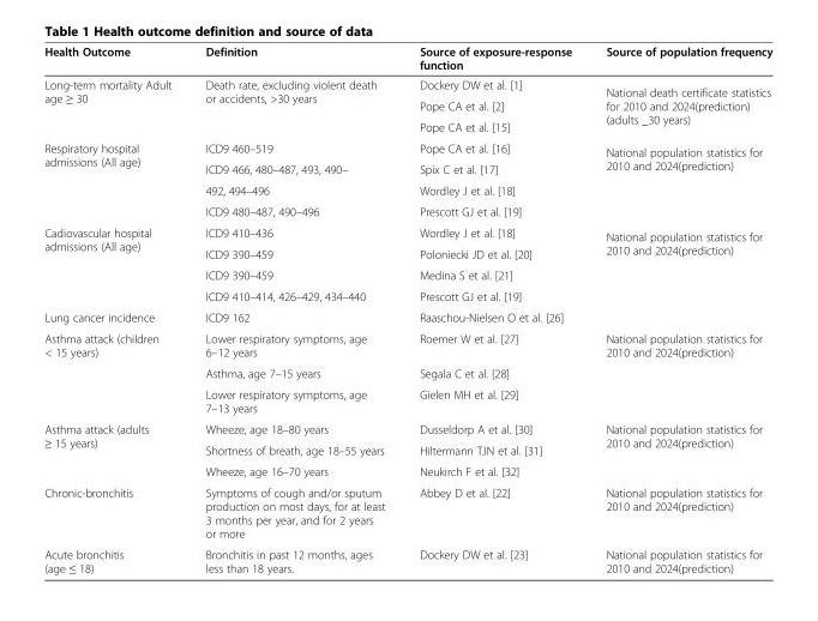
<table><thead><tr><td>Health Outcome</td><td>Definition</td><td>Source of exposure-response function</td><td>Source of population frequency</td></tr></thead><tbody><tr><td rowspan="3">Long-term mortality Adult age ≥ 30</td><td rowspan="3">Death rate, excluding violent death or accidents, &gt;30 years</td><td>Dockery DW et al. [1]</td><td rowspan="3">National death certificate statistics for 2010 and 2024(prediction) (adults _30 years)</td></tr><tr><td>Pope CA et al. [2]</td></tr><tr><td>Pope CA et al. [15]</td></tr><tr><td rowspan="4">Respiratory hospital admissions (All age)</td><td>ICD9 460–519</td><td>Pope CA et al. [16]</td><td rowspan="2">National population statistics for 2010 and 2024(prediction)</td></tr><tr><td>ICD9 466, 480–487, 493, 490–</td><td>Spix C et al. [17]</td></tr><tr><td>492, 494–496</td><td>Wordley J et al. [18]</td><td></td></tr><tr><td>ICD9 480–487, 490–496</td><td>Prescott GJ et al. [19]</td><td></td></tr><tr><td rowspan="4">Cadiovascular hospital admissions (All age)</td><td>ICD9 410–436</td><td>Wordley J et al. [18]</td><td rowspan="2">National population statistics for 2010 and 2024(prediction)</td></tr><tr><td>ICD9 390–459</td><td>Poloniecki JD et al. [20]</td></tr><tr><td>ICD9 390–459</td><td>Medina S et al. [21]</td><td></td></tr><tr><td>ICD9 410–414, 426–429, 434–440</td><td>Prescott GJ et al. [19]</td><td></td></tr><tr><td>Lung cancer incidence</td><td>ICD9 162</td><td>Raaschou-Nielsen O et al. [26]</td><td></td></tr><tr><td rowspan="3">Asthma attack (children &lt; 15 years)</td><td>Lower respiratory symptoms, age 6–12 years</td><td>Roemer W et al. [27]</td><td>National population statistics for 2010 and 2024(prediction)</td></tr><tr><td>Asthma, age 7–15 years</td><td>Segala C et al. [28]</td><td></td></tr><tr><td>Lower respiratory symptoms, age 7–13 years</td><td>Gielen MH et al. [29]</td><td></td></tr><tr><td rowspan="3">Asthma attack (adults ≥ 15 years)</td><td>Wheeze, age 18–80 years</td><td>Dusseldorp A et al. [30]</td><td rowspan="2">National population statistics for 2010 and 2024(prediction)</td></tr><tr><td>Shortness of breath, age 18–55 years</td><td>Hiltermann TJN et al. [31]</td></tr><tr><td>Wheeze, age 16–70 years</td><td>Neukirch F et al. [32]</td><td></td></tr><tr><td>Chronic-bronchitis</td><td>Symptoms of cough and/or sputum production on most days, for at least 3 months per year, and for 2 years or more</td><td>Abbey D et al. [22]</td><td>National population statistics for 2010 and 2024(prediction)</td></tr><tr><td>Acute bronchitis (age ≤ 18)</td><td>Bronchitis in past 12 months, ages less than 18 years.</td><td>Dockery DW et al. [23]</td><td>National population statistics for 2010 and 2024(prediction)</td></tr></tbody></table>